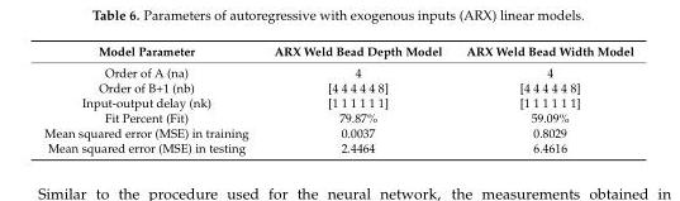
<table><thead><tr><td>Model Parameter</td><td>ARX Weld Bead Depth Model</td><td>ARX Weld Bead Width Model</td></tr></thead><tbody><tr><td>Order of A (na)</td><td>4</td><td>4</td></tr><tr><td>Order of B+1 (nb)</td><td>[4 4 4 4 4 8]</td><td>[4 4 4 4 4 8]</td></tr><tr><td>Input-output delay (nk)</td><td>[1 1 1 1 1 1]</td><td>[1 1 1 1 1 1]</td></tr><tr><td>Fit Percent (Fit)</td><td>79.87%</td><td>59.09%</td></tr><tr><td>Mean squared error (MSE) in training</td><td>0.0037</td><td>0.8029</td></tr><tr><td>Mean squared error (MSE) in testing</td><td>2.4464</td><td>6.4616</td></tr></tbody></table>